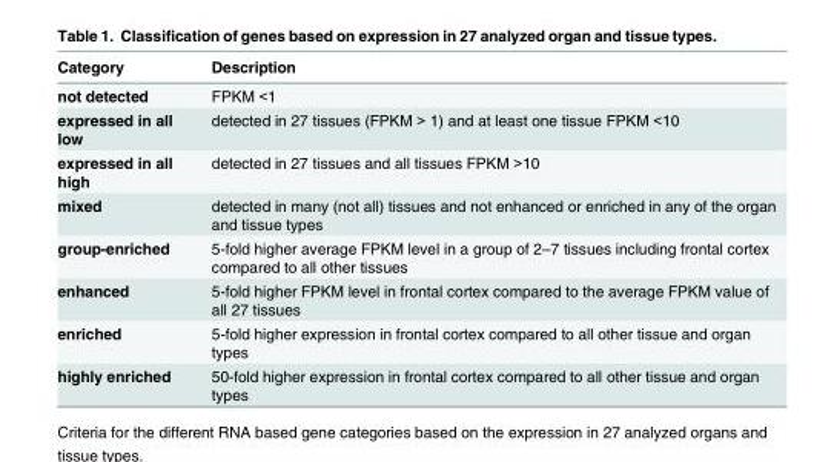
<table><thead><tr><td>Category</td><td>Description</td></tr></thead><tbody><tr><td>not detected</td><td>FPKM &lt;1</td></tr><tr><td>expressed in all low</td><td>detected in 27 tissues (FPKM &gt; 1) and at least one tissue FPKM &lt;10</td></tr><tr><td>expressed in all high</td><td>detected in 27 tissues and all tissues FPKM &gt;10</td></tr><tr><td>mixed</td><td>detected in many (not all) tissues and not enhanced or enriched in any of the organ and tissue types</td></tr><tr><td>group-enriched</td><td>5-fold higher average FPKM level in a group of 2–7 tissues including frontal cortex compared to all other tissues</td></tr><tr><td>enhanced</td><td>5-fold higher FPKM level in frontal cortex compared to the average FPKM value of all 27 tissues</td></tr><tr><td>enriched</td><td>5-fold higher expression in frontal cortex compared to all other tissue and organ types</td></tr><tr><td>highly enriched</td><td>50-fold higher expression in frontal cortex compared to all other tissue and organ types</td></tr></tbody></table>